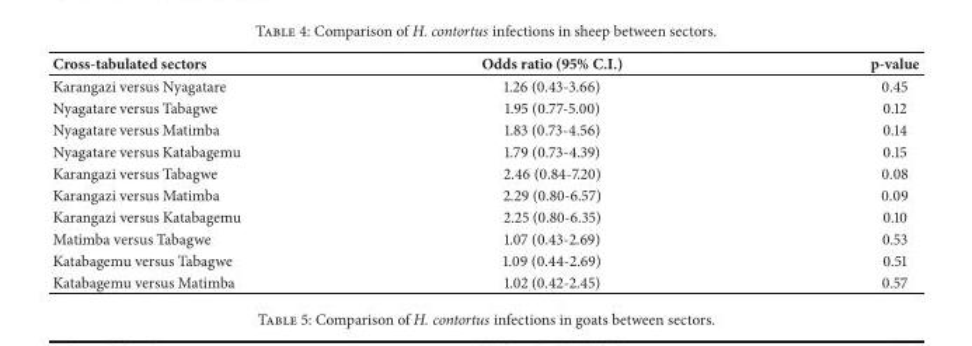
<table><thead><tr><td>Cross-tabulated sectors</td><td>Odds ratio (95% C.I.)</td><td>p-value</td></tr></thead><tbody><tr><td>Karangazi versus Nyagatare</td><td>1.26 (0.43-3.66)</td><td>0.45</td></tr><tr><td>Nyagatare versus Tabagwe</td><td>1.95 (0.77-5.00)</td><td>0.12</td></tr><tr><td>Nyagatare versus Matimba</td><td>1.83 (0.73-4.56)</td><td>0.14</td></tr><tr><td>Nyagatare versus Katabagemu</td><td>1.79 (0.73-4.39)</td><td>0.15</td></tr><tr><td>Karangazi versus Tabagwe</td><td>2.46 (0.84-7.20)</td><td>0.08</td></tr><tr><td>Karangazi versus Matimba</td><td>2.29 (0.80-6.57)</td><td>0.09</td></tr><tr><td>Karangazi versus Katabagemu</td><td>2.25 (0.80-6.35)</td><td>0.10</td></tr><tr><td>Matimba versus Tabagwe</td><td>1.07 (0.43-2.69)</td><td>0.53</td></tr><tr><td>Katabagemu versus Tabagwe</td><td>1.09 (0.44-2.69)</td><td>0.51</td></tr><tr><td>Katabagemu versus Matimba</td><td>1.02 (0.42-2.45)</td><td>0.57</td></tr></tbody></table>